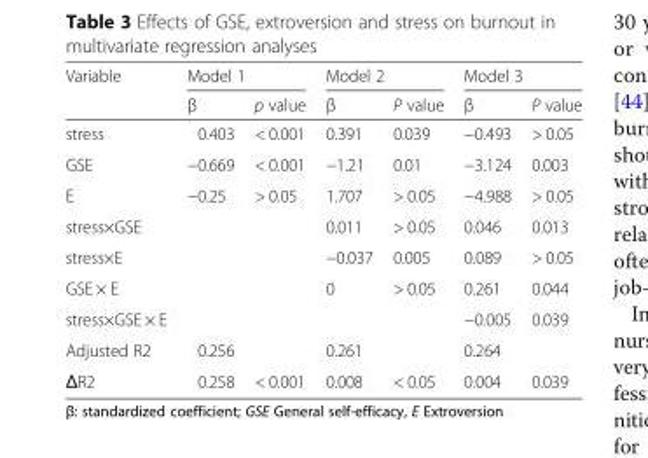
<table><thead><tr><td rowspan="2">Variable</td><td colspan="2">Model 1</td><td colspan="2">Model 2</td><td colspan="2">Model 3</td></tr><tr><td>β</td><td>p value</td><td>β</td><td>P value</td><td>β</td><td>P value</td></tr></thead><tbody><tr><td>stress</td><td>0.403</td><td>&lt; 0.001</td><td>0.391</td><td>0.039</td><td>−0.493</td><td>&gt; 0.05</td></tr><tr><td>GSE</td><td>−0.669</td><td>&lt; 0.001</td><td>−1.21</td><td>0.01</td><td>−3.124</td><td>0.003</td></tr><tr><td>E</td><td>−0.25</td><td>&gt; 0.05</td><td>1.707</td><td>&gt; 0.05</td><td>−4.988</td><td>&gt; 0.05</td></tr><tr><td>stress×GSE</td><td></td><td></td><td>0.011</td><td>&gt; 0.05</td><td>0.046</td><td>0.013</td></tr><tr><td>stress×E</td><td></td><td></td><td>−0.037</td><td>0.005</td><td>0.089</td><td>&gt; 0.05</td></tr><tr><td>GSE × E</td><td></td><td></td><td>0</td><td>&gt; 0.05</td><td>0.261</td><td>0.044</td></tr><tr><td>stress×GSE × E</td><td></td><td></td><td></td><td></td><td>−0.005</td><td>0.039</td></tr><tr><td>Adjusted R2</td><td>0.256</td><td></td><td>0.261</td><td></td><td>0.264</td><td></td></tr><tr><td>ΔR2</td><td>0.258</td><td>&lt; 0.001</td><td>0.008</td><td>&lt; 0.05</td><td>0.004</td><td>0.039</td></tr></tbody></table>